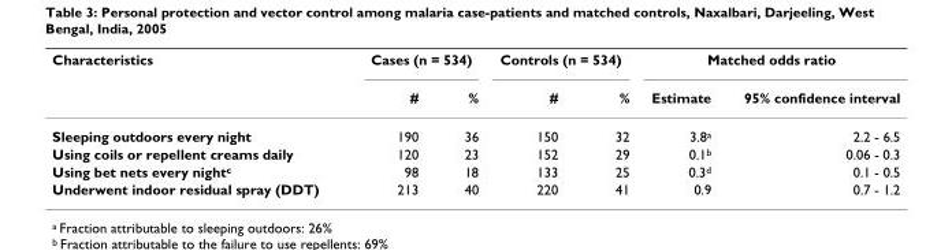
<table><thead><tr><td rowspan="2">Characteristics</td><td colspan="2">Cases (n = 534)</td><td colspan="2">Controls (n = 534)</td><td colspan="2">Matched odds ratio</td></tr><tr><td>#</td><td>%</td><td>#</td><td>%</td><td>Estimate</td><td>95% confidence interval</td></tr></thead><tbody><tr><td>Sleeping outdoors every night</td><td>190</td><td>36</td><td>150</td><td>32</td><td>3.8<sup>a</sup></td><td>2.2 - 6.5</td></tr><tr><td>Using coils or repellent creams daily</td><td>120</td><td>23</td><td>152</td><td>29</td><td>0.1<sup>b</sup></td><td>0.06 - 0.3</td></tr><tr><td>Using bet nets every night<sup>c</sup></td><td>98</td><td>18</td><td>133</td><td>25</td><td>0.3<sup>d</sup></td><td>0.1 - 0.5</td></tr><tr><td>Underwent indoor residual spray (DDT)</td><td>213</td><td>40</td><td>220</td><td>41</td><td>0.9</td><td>0.7 - 1.2</td></tr></tbody></table>